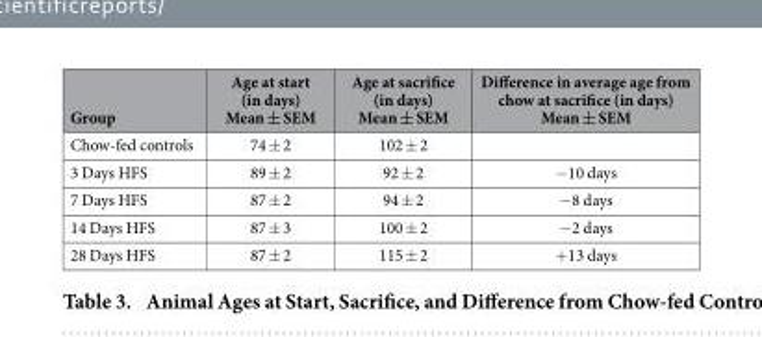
<table><thead><tr><td>Group</td><td>Age at start (in days) Mean ± SEM</td><td>Age at sacrifice (in days) Mean ± SEM</td><td>Difference in average age from chow at sacrifice (in days) Mean ± SEM</td></tr></thead><tbody><tr><td>Chow-fed controls</td><td>74 ± 2</td><td>102 ± 2</td><td></td></tr><tr><td>3 Days HFS</td><td>89 ± 2</td><td>92 ± 2</td><td>− 10 days</td></tr><tr><td>7 Days HFS</td><td>87 ± 2</td><td>94 ± 2</td><td>− 8 days</td></tr><tr><td>14 Days HFS</td><td>87 ± 3</td><td>100 ± 2</td><td>− 2 days</td></tr><tr><td>28 Days HFS</td><td>87 ± 2</td><td>115 ± 2</td><td>+ 13 days</td></tr></tbody></table>